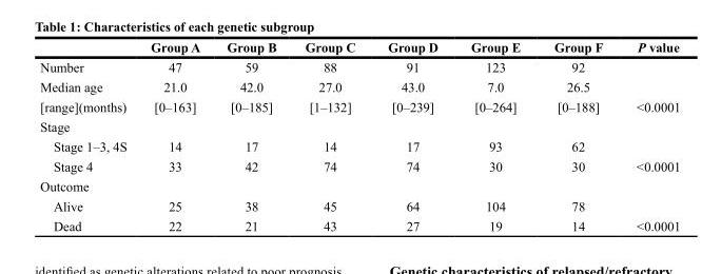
<table><thead><tr><td></td><td>Group A</td><td>Group B</td><td>Group C</td><td>Group D</td><td>Group E</td><td>Group F</td><td>P value</td></tr></thead><tbody><tr><td>Number</td><td>47</td><td>59</td><td>88</td><td>91</td><td>123</td><td>92</td><td></td></tr><tr><td>Median age</td><td>21.0</td><td>42.0</td><td>27.0</td><td>43.0</td><td>7.0</td><td>26.5</td><td></td></tr><tr><td>[range](months)</td><td>[0–163]</td><td>[0–185]</td><td>[1–132]</td><td>[0–239]</td><td>[0–264]</td><td>[0–188]</td><td>&lt;0.0001</td></tr><tr><td colspan="8">Stage</td></tr><tr><td>Stage 1–3, 4S</td><td>14</td><td>17</td><td>14</td><td>17</td><td>93</td><td>62</td><td></td></tr><tr><td>Stage 4</td><td>33</td><td>42</td><td>74</td><td>74</td><td>30</td><td>30</td><td>&lt;0.0001</td></tr><tr><td colspan="8">Outcome</td></tr><tr><td>Alive</td><td>25</td><td>38</td><td>45</td><td>64</td><td>104</td><td>78</td><td></td></tr><tr><td>Dead</td><td>22</td><td>21</td><td>43</td><td>27</td><td>19</td><td>14</td><td>&lt;0.0001</td></tr></tbody></table>